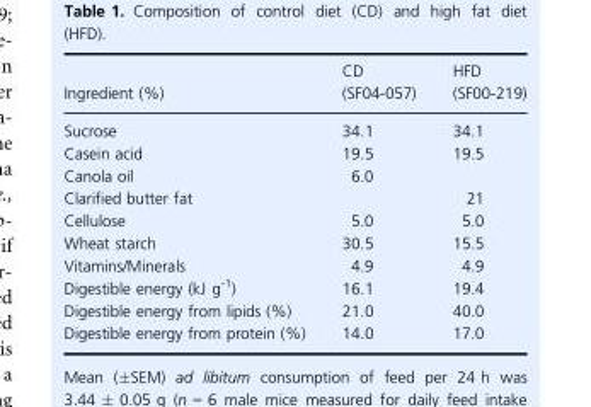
<table><thead><tr><td>Ingredient (%)</td><td>CD (SF04-057)</td><td>HFD (SF00-219)</td></tr></thead><tbody><tr><td>Sucrose</td><td>34.1</td><td>34.1</td></tr><tr><td>Casein acid</td><td>19.5</td><td>19.5</td></tr><tr><td>Canola oil</td><td>6.0</td><td></td></tr><tr><td>Clarified butter fat</td><td></td><td>21</td></tr><tr><td>Cellulose</td><td>5.0</td><td>5.0</td></tr><tr><td>Wheat starch</td><td>30.5</td><td>15.5</td></tr><tr><td>Vitamins/Minerals</td><td>4.9</td><td>4.9</td></tr><tr><td>Digestible energy (kJ g<sup>-1</sup>)</td><td>16.1</td><td>19.4</td></tr><tr><td>Digestible energy from lipids (%)</td><td>21.0</td><td>40.0</td></tr><tr><td>Digestible energy from protein (%)</td><td>14.0</td><td>17.0</td></tr></tbody></table>